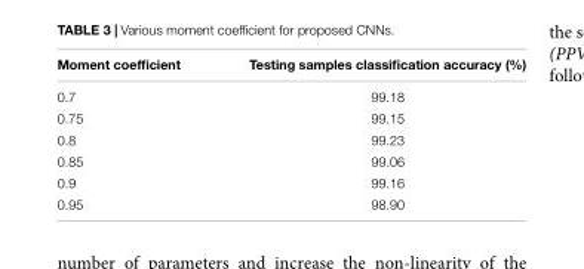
<table><thead><tr><td>Moment coefficient</td><td>Testing samples classification accuracy (%)</td></tr></thead><tbody><tr><td>0.7</td><td>99.18</td></tr><tr><td>0.75</td><td>99.15</td></tr><tr><td>0.8</td><td>99.23</td></tr><tr><td>0.85</td><td>99.06</td></tr><tr><td>0.9</td><td>99.16</td></tr><tr><td>0.95</td><td>98.90</td></tr></tbody></table>